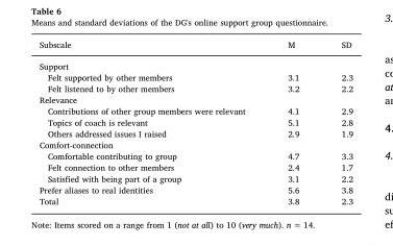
<table><thead><tr><td>Subscale</td><td>M</td><td>SD</td></tr></thead><tbody><tr><td colspan="3">Support</td></tr><tr><td>Felt supported by other members</td><td>3.1</td><td>2.3</td></tr><tr><td>Felt listened to by other members</td><td>3.2</td><td>2.2</td></tr><tr><td colspan="3">Relevance</td></tr><tr><td>Contributions of other group members were relevant</td><td>4.1</td><td>2.9</td></tr><tr><td>Topics of coach is relevant</td><td>5.1</td><td>2.8</td></tr><tr><td>Others addressed issues I raised</td><td>2.9</td><td>1.9</td></tr><tr><td colspan="3">Comfort-connection</td></tr><tr><td>Comfortable contributing to group</td><td>4.7</td><td>3.3</td></tr><tr><td>Felt connection to other members</td><td>2.4</td><td>1.7</td></tr><tr><td>Satisfied with being part of a group</td><td>3.1</td><td>2.2</td></tr><tr><td>Prefer aliases to real identities</td><td>5.6</td><td>3.8</td></tr><tr><td>Total</td><td>3.8</td><td>2.3</td></tr></tbody></table>